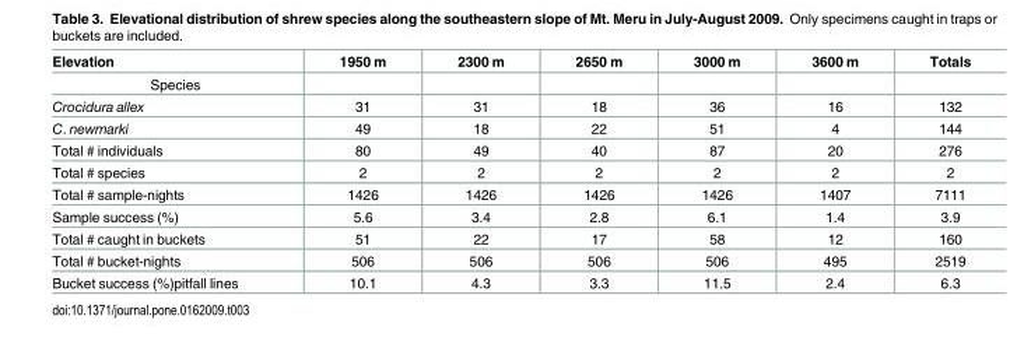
<table><thead><tr><td>Elevation</td><td>1950 m</td><td>2300 m</td><td>2650 m</td><td>3000 m</td><td>3600 m</td><td>Totals</td></tr></thead><tbody><tr><td colspan="7">Species</td></tr><tr><td>Crocidura allex</td><td>31</td><td>31</td><td>18</td><td>36</td><td>16</td><td>132</td></tr><tr><td>C. newmarki</td><td>49</td><td>18</td><td>22</td><td>51</td><td>4</td><td>144</td></tr><tr><td>Total # individuals</td><td>80</td><td>49</td><td>40</td><td>87</td><td>20</td><td>276</td></tr><tr><td>Total # species</td><td>2</td><td>2</td><td>2</td><td>2</td><td>2</td><td>2</td></tr><tr><td>Total # sample-nights</td><td>1426</td><td>1426</td><td>1426</td><td>1426</td><td>1407</td><td>7111</td></tr><tr><td>Sample success (%)</td><td>5.6</td><td>3.4</td><td>2.8</td><td>6.1</td><td>1.4</td><td>3.9</td></tr><tr><td>Total # caught in buckets</td><td>51</td><td>22</td><td>17</td><td>58</td><td>12</td><td>160</td></tr><tr><td>Total # bucket-nights</td><td>506</td><td>506</td><td>506</td><td>506</td><td>495</td><td>2519</td></tr><tr><td>Bucket success (%)pitfall lines</td><td>10.1</td><td>4.3</td><td>3.3</td><td>11.5</td><td>2.4</td><td>6.3</td></tr></tbody></table>